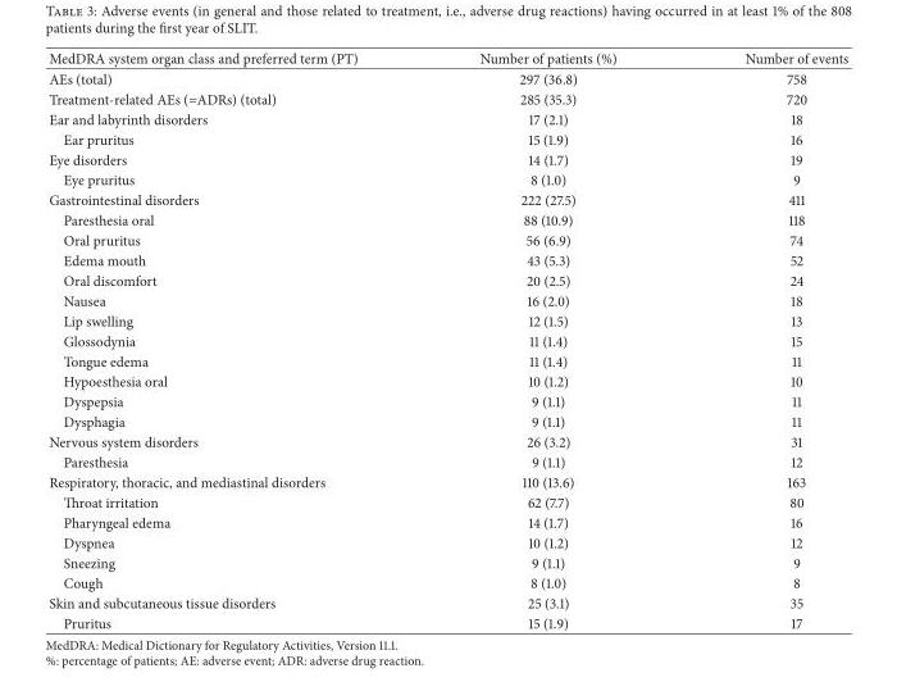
<table><thead><tr><td>MedDRA system organ class and preferred term (PT)</td><td>Number of patients (%)</td><td>Number of events</td></tr></thead><tbody><tr><td>AEs (total)</td><td>297 (36.8)</td><td>758</td></tr><tr><td>Treatment-related AEs (=ADRs) (total)</td><td>285 (35.3)</td><td>720</td></tr><tr><td>Ear and labyrinth disorders</td><td>17 (2.1)</td><td>18</td></tr><tr><td>Ear pruritus</td><td>15 (1.9)</td><td>16</td></tr><tr><td>Eye disorders</td><td>14 (1.7)</td><td>19</td></tr><tr><td>Eye pruritus</td><td>8 (1.0)</td><td>9</td></tr><tr><td>Gastrointestinal disorders</td><td>222 (27.5)</td><td>411</td></tr><tr><td>Paresthesia oral</td><td>88 (10.9)</td><td>118</td></tr><tr><td>Oral pruritus</td><td>56 (6.9)</td><td>74</td></tr><tr><td>Edema mouth</td><td>43 (5.3)</td><td>52</td></tr><tr><td>Oral discomfort</td><td>20 (2.5)</td><td>24</td></tr><tr><td>Nausea</td><td>16 (2.0)</td><td>18</td></tr><tr><td>Lip swelling</td><td>12 (1.5)</td><td>13</td></tr><tr><td>Glossodynia</td><td>11 (1.4)</td><td>15</td></tr><tr><td>Tongue edema</td><td>11 (1.4)</td><td>11</td></tr><tr><td>Hypoesthesia oral</td><td>10 (1.2)</td><td>10</td></tr><tr><td>Dyspepsia</td><td>9 (1.1)</td><td>11</td></tr><tr><td>Dysphagia</td><td>9 (1.1)</td><td>11</td></tr><tr><td>Nervous system disorders</td><td>26 (3.2)</td><td>31</td></tr><tr><td>Paresthesia</td><td>9 (1.1)</td><td>12</td></tr><tr><td>Respiratory, thoracic, and mediastinal disorders</td><td>110 (13.6)</td><td>163</td></tr><tr><td>Throat irritation</td><td>62 (7.7)</td><td>80</td></tr><tr><td>Pharyngeal edema</td><td>14 (1.7)</td><td>16</td></tr><tr><td>Dyspnea</td><td>10 (1.2)</td><td>12</td></tr><tr><td>Sneezing</td><td>9 (1.1)</td><td>9</td></tr><tr><td>Cough</td><td>8 (1.0)</td><td>8</td></tr><tr><td>Skin and subcutaneous tissue disorders</td><td>25 (3.1)</td><td>35</td></tr><tr><td>Pruritus</td><td>15 (1.9)</td><td>17</td></tr></tbody></table>